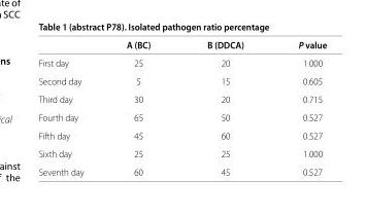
<table><thead><tr><td></td><td>A (BC)</td><td>B (DDCA)</td><td>P value</td></tr></thead><tbody><tr><td>First day</td><td>25</td><td>20</td><td>1.000</td></tr><tr><td>Second day</td><td>5</td><td>15</td><td>0.605</td></tr><tr><td>Third day</td><td>30</td><td>20</td><td>0.715</td></tr><tr><td>Fourth day</td><td>65</td><td>50</td><td>0.527</td></tr><tr><td>Fifth day</td><td>45</td><td>60</td><td>0.527</td></tr><tr><td>Sixth day</td><td>25</td><td>25</td><td>1.000</td></tr><tr><td>Seventh day</td><td>60</td><td>45</td><td>0.527</td></tr></tbody></table>